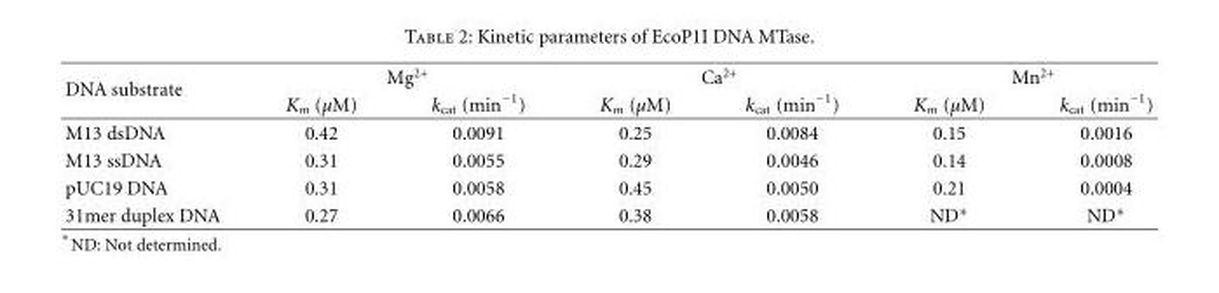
<table><thead><tr><td rowspan="2">DNA substrate</td><td colspan="2">Mg<sup>2+</sup></td><td colspan="2">Ca<sup>2+</sup></td><td colspan="2">Mn<sup>2+</sup></td></tr><tr><td>K<sub>m</sub> (μM)</td><td>k<sub>cat</sub> (min<sup>−1</sup>)</td><td>K<sub>m</sub> (μM)</td><td>k<sub>cat</sub> (min<sup>−1</sup>)</td><td>K<sub>m</sub> (μM)</td><td>k<sub>cat</sub> (min<sup>−1</sup>)</td></tr></thead><tbody><tr><td>M13 dsDNA</td><td>0.42</td><td>0.0091</td><td>0.25</td><td>0.0084</td><td>0.15</td><td>0.0016</td></tr><tr><td>M13 ssDNA</td><td>0.31</td><td>0.0055</td><td>0.29</td><td>0.0046</td><td>0.14</td><td>0.0008</td></tr><tr><td>pUC19 DNA</td><td>0.31</td><td>0.0058</td><td>0.45</td><td>0.0050</td><td>0.21</td><td>0.0004</td></tr><tr><td>31mer duplex DNA</td><td>0.27</td><td>0.0066</td><td>0.38</td><td>0.0058</td><td>ND∗</td><td>ND∗</td></tr></tbody></table>